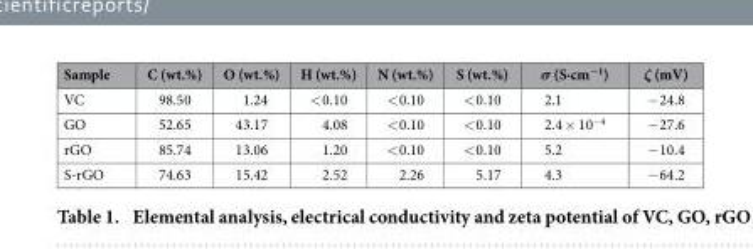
<table><thead><tr><td>Sample</td><td>C (wt.%)</td><td>O (wt.%)</td><td>H (wt.%)</td><td>N (wt.%)</td><td>S (wt.%)</td><td>σ (S·cm<sup>−1</sup>)</td><td>ζ (mV)</td></tr></thead><tbody><tr><td>VC</td><td>98.50</td><td>1.24</td><td>&lt; 0.10</td><td>&lt; 0.10</td><td>&lt; 0.10</td><td>2.1</td><td>− 24.8</td></tr><tr><td>GO</td><td>52.65</td><td>43.17</td><td>4.08</td><td>&lt; 0.10</td><td>&lt; 0.10</td><td>2.4 × 10<sup>−4</sup></td><td>− 27.6</td></tr><tr><td>rGO</td><td>85.74</td><td>13.06</td><td>1.20</td><td>&lt; 0.10</td><td>&lt; 0.10</td><td>5.2</td><td>− 10.4</td></tr><tr><td>S-rGO</td><td>74.63</td><td>15.42</td><td>2.52</td><td>2.26</td><td>5.17</td><td>4.3</td><td>− 64.2</td></tr></tbody></table>